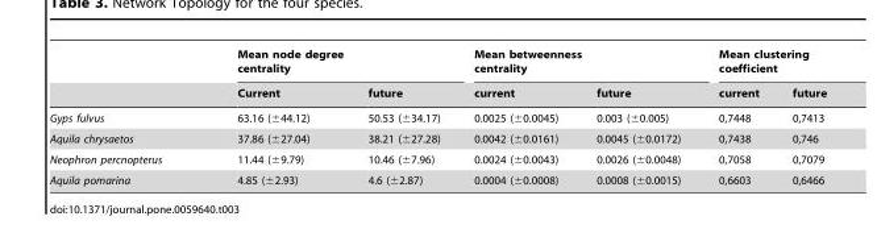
<table><thead><tr><td rowspan="2"></td><td colspan="2">Mean node degree centrality</td><td colspan="2">Mean betweenness centrality</td><td colspan="2">Mean clustering coefficient</td></tr><tr><td>Current</td><td>future</td><td>current</td><td>future</td><td>current</td><td>future</td></tr></thead><tbody><tr><td>Gyps fulvus</td><td>63.16 (±44.12)</td><td>50.53 (±34.17)</td><td>0.0025 (±0.0045)</td><td>0.003 (±0.005)</td><td>0,7448</td><td>0,7413</td></tr><tr><td>Aquila chrysaetos</td><td>37.86 (±27.04)</td><td>38.21 (±27.28)</td><td>0.0042 (±0.0161)</td><td>0.0045 (±0.0172)</td><td>0,7438</td><td>0,746</td></tr><tr><td>Neophron percnopterus</td><td>11.44 (±9.79)</td><td>10.46 (±7.96)</td><td>0.0024 (±0.0043)</td><td>0.0026 (±0.0048)</td><td>0,7058</td><td>0,7079</td></tr><tr><td>Aquila pomarina</td><td>4.85 (±2.93)</td><td>4.6 (±2.87)</td><td>0.0004 (±0.0008)</td><td>0.0008 (±0.0015)</td><td>0,6603</td><td>0,6466</td></tr></tbody></table>